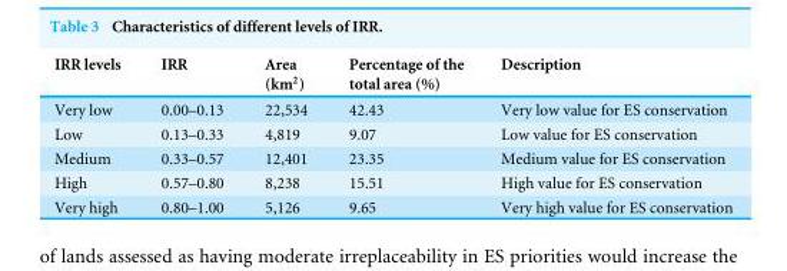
<table><thead><tr><td>IRR levels</td><td>IRR</td><td>Area (km<sup>2</sup>)</td><td>Percentage of the total area (%)</td><td>Description</td></tr></thead><tbody><tr><td>Very low</td><td>0.00–0.13</td><td>22,534</td><td>42.43</td><td>Very low value for ES conservation</td></tr><tr><td>Low</td><td>0.13–0.33</td><td>4,819</td><td>9.07</td><td>Low value for ES conservation</td></tr><tr><td>Medium</td><td>0.33–0.57</td><td>12,401</td><td>23.35</td><td>Medium value for ES conservation</td></tr><tr><td>High</td><td>0.57–0.80</td><td>8,238</td><td>15.51</td><td>High value for ES conservation</td></tr><tr><td>Very high</td><td>0.80–1.00</td><td>5,126</td><td>9.65</td><td>Very high value for ES conservation</td></tr></tbody></table>